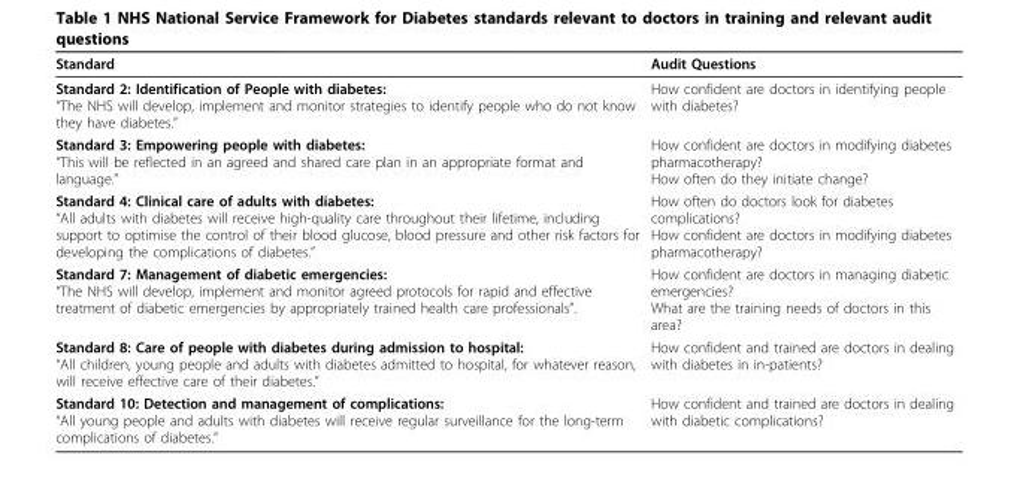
<table><thead><tr><td>Standard</td><td>Audit Questions</td></tr></thead><tbody><tr><td>Standard 2: Identification of People with diabetes: “The NHS will develop, implement and monitor strategies to identify people who do not know they have diabetes.”</td><td>How confident are doctors in identifying people with diabetes?</td></tr><tr><td>Standard 3: Empowering people with diabetes: “This will be reflected in an agreed and shared care plan in an appropriate format and language.”</td><td>How confident are doctors in modifying diabetes pharmacotherapy? How often do they initiate change?</td></tr><tr><td>Standard 4: Clinical care of adults with diabetes: “All adults with diabetes will receive high-quality care throughout their lifetime, including support to optimise the control of their blood glucose, blood pressure and other risk factors for developing the complications of diabetes.”</td><td>How often do doctors look for diabetes complications? How confident are doctors in modifying diabetes pharmacotherapy?</td></tr><tr><td>Standard 7: Management of diabetic emergencies: “The NHS will develop, implement and monitor agreed protocols for rapid and effective treatment of diabetic emergencies by appropriately trained health care professionals”.</td><td>How confident are doctors in managing diabetic emergencies? What are the training needs of doctors in this area?</td></tr><tr><td>Standard 8: Care of people with diabetes during admission to hospital: “All children, young people and adults with diabetes admitted to hospital, for whatever reason, will receive effective care of their diabetes.”</td><td>How confident and trained are doctors in dealing with diabetes in in-patients?</td></tr><tr><td>Standard 10: Detection and management of complications: “All young people and adults with diabetes will receive regular surveillance for the long-term complications of diabetes.”</td><td>How confident and trained are doctors in dealing with diabetic complications?</td></tr></tbody></table>